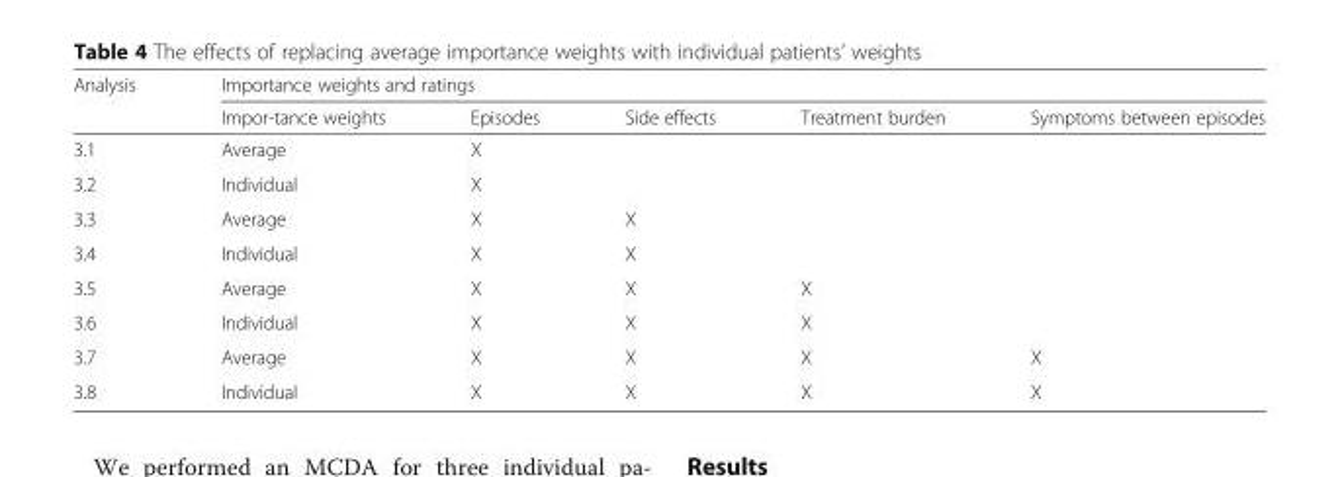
<table><thead><tr><td rowspan="2">Analysis</td><td colspan="5">Importance weights and ratings</td></tr><tr><td>Impor-tance weights</td><td>Episodes</td><td>Side effects</td><td>Treatment burden</td><td>Symptoms between episodes</td></tr></thead><tbody><tr><td>3.1</td><td>Average</td><td>X</td><td></td><td></td><td></td></tr><tr><td>3.2</td><td>Individual</td><td>X</td><td></td><td></td><td></td></tr><tr><td>3.3</td><td>Average</td><td>X</td><td>X</td><td></td><td></td></tr><tr><td>3.4</td><td>Individual</td><td>X</td><td>X</td><td></td><td></td></tr><tr><td>3.5</td><td>Average</td><td>X</td><td>X</td><td>X</td><td></td></tr><tr><td>3.6</td><td>Individual</td><td>X</td><td>X</td><td>X</td><td></td></tr><tr><td>3.7</td><td>Average</td><td>X</td><td>X</td><td>X</td><td>X</td></tr><tr><td>3.8</td><td>Individual</td><td>X</td><td>X</td><td>X</td><td>X</td></tr></tbody></table>